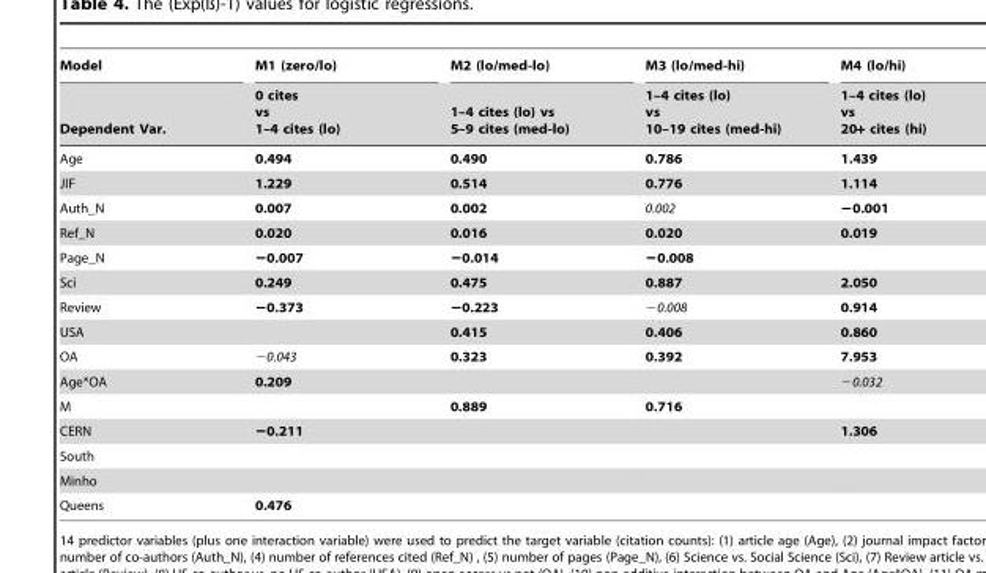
<table><thead><tr><td rowspan="2">Model Dependent Var.</td><td rowspan="2">M1 (zero/lo) 0 cites vs 1–4 cites (lo)</td><td rowspan="2">M2 (lo/med-lo) 1–4 cites (lo) vs 5–9 cites (med-lo)</td><td rowspan="2">M3 (lo/med-hi) 1–4 cites (lo) vs 10–19 cites (med-hi)</td><td rowspan="2">M4 (lo/hi) 1–4 cites (lo) vs 20+ cites (hi)</td></tr><tr></tr></thead><tbody><tr><td>Age</td><td>0.494</td><td>0.490</td><td>0.786</td><td>1.439</td></tr><tr><td>JIF</td><td>1.229</td><td>0.514</td><td>0.776</td><td>1.114</td></tr><tr><td>Auth_N</td><td>0.007</td><td>0.002</td><td>0.002</td><td>−0.001</td></tr><tr><td>Ref_N</td><td>0.020</td><td>0.016</td><td>0.020</td><td>0.019</td></tr><tr><td>Page_N</td><td>−0.007</td><td>−0.014</td><td>−0.008</td><td></td></tr><tr><td>Sci</td><td>0.249</td><td>0.475</td><td>0.887</td><td>2.050</td></tr><tr><td>Review</td><td>−0.373</td><td>−0.223</td><td>−0.008</td><td>0.914</td></tr><tr><td>USA</td><td></td><td>0.415</td><td>0.406</td><td>0.860</td></tr><tr><td>OA</td><td>−0.043</td><td>0.323</td><td>0.392</td><td>7.953</td></tr><tr><td>Age*OA</td><td>0.209</td><td></td><td></td><td>−0.032</td></tr><tr><td>M</td><td></td><td>0.889</td><td>0.716</td><td></td></tr><tr><td>CERN</td><td>−0.211</td><td></td><td></td><td>1.306</td></tr><tr><td colspan="5">South</td></tr><tr><td colspan="5">Minho</td></tr><tr><td>Queens</td><td>0.476</td><td></td><td></td><td></td></tr></tbody></table>